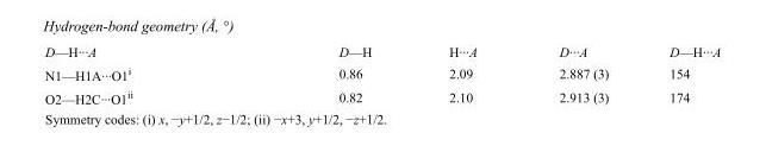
<table><tbody><tr><td>D—H···A</td><td>D—H</td><td>H···A</td><td>D···A</td><td>D—H···A</td></tr><tr><td>N1—H1A···O1<sup>i</sup></td><td>0.86</td><td>2.09</td><td>2.887 (3)</td><td>154</td></tr><tr><td>O2—H2C···O1<sup>ii</sup></td><td>0.82</td><td>2.10</td><td>2.913 (3)</td><td>174</td></tr></tbody></table>